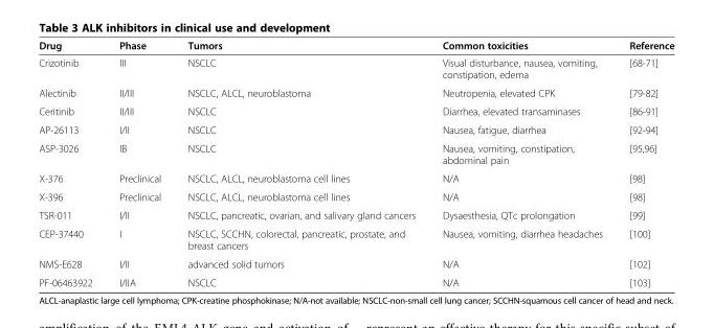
<table><thead><tr><td>Drug</td><td>Phase</td><td>Tumors</td><td>Common toxicities</td><td>Reference</td></tr></thead><tbody><tr><td>Crizotinib</td><td>III</td><td>NSCLC</td><td>Visual disturbance, nausea, vomiting, constipation, edema</td><td>[68-71]</td></tr><tr><td>Alectinib</td><td>II/III</td><td>NSCLC, ALCL, neuroblastoma</td><td>Neutropenia, elevated CPK</td><td>[79-82]</td></tr><tr><td>Ceritinib</td><td>II/III</td><td>NSCLC</td><td>Diarrhea, elevated transaminases</td><td>[86-91]</td></tr><tr><td>AP-26113</td><td>I/II</td><td>NSCLC</td><td>Nausea, fatigue, diarrhea</td><td>[92-94]</td></tr><tr><td>ASP-3026</td><td>IB</td><td>NSCLC</td><td>Nausea, vomiting, constipation, abdominal pain</td><td>[95,96]</td></tr><tr><td>X-376</td><td>Preclinical</td><td>NSCLC, ALCL, neuroblastoma cell lines</td><td>N/A</td><td>[98]</td></tr><tr><td>X-396</td><td>Preclinical</td><td>NSCLC, ALCL, neuroblastoma cell lines</td><td>N/A</td><td>[98]</td></tr><tr><td>TSR-011</td><td>I/II</td><td>NSCLC, pancreatic, ovarian, and salivary gland cancers</td><td>Dysaesthesia, QTc prolongation</td><td>[99]</td></tr><tr><td>CEP-37440</td><td>I</td><td>NSCLC, SCCHN, colorectal, pancreatic, prostate, and breast cancers</td><td>Nausea, vomiting, diarrhea headaches</td><td>[100]</td></tr><tr><td>NMS-E628</td><td>I/II</td><td>advanced solid tumors</td><td>N/A</td><td>[102]</td></tr><tr><td>PF-06463922</td><td>I/IIA</td><td>NSCLC</td><td>N/A</td><td>[103]</td></tr></tbody></table>